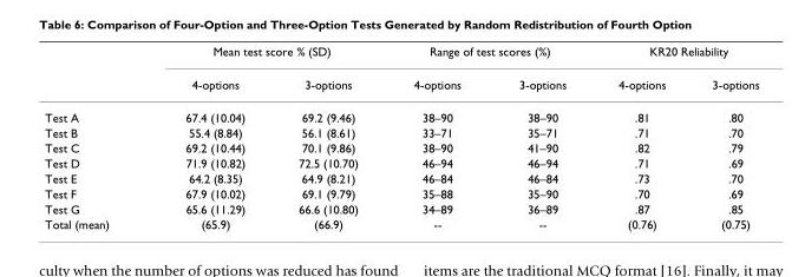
<table><thead><tr><td rowspan="2"></td><td colspan="2">Mean test score % (SD)</td><td colspan="2">Range of test scores (%)</td><td colspan="2">KR20 Reliability</td></tr><tr><td>4-options</td><td>3-options</td><td>4-options</td><td>3-options</td><td>4-options</td><td>3-options</td></tr></thead><tbody><tr><td>Test A</td><td>67.4 (10.04)</td><td>69.2 (9.46)</td><td>38–90</td><td>38–90</td><td>.81</td><td>.80</td></tr><tr><td>Test B</td><td>55.4 (8.84)</td><td>56.1 (8.61)</td><td>33–71</td><td>35–71</td><td>.71</td><td>.70</td></tr><tr><td>Test C</td><td>69.2 (10.44)</td><td>70.1 (9.86)</td><td>38–90</td><td>41–90</td><td>.82</td><td>.79</td></tr><tr><td>Test D</td><td>71.9 (10.82)</td><td>72.5 (10.70)</td><td>46–94</td><td>46–94</td><td>.71</td><td>.69</td></tr><tr><td>Test E</td><td>64.2 (8.35)</td><td>64.9 (8.21)</td><td>46–84</td><td>46–84</td><td>.73</td><td>.70</td></tr><tr><td>Test F</td><td>67.9 (10.02)</td><td>69.1 (9.79)</td><td>35–88</td><td>35–90</td><td>.70</td><td>.69</td></tr><tr><td>Test G</td><td>65.6 (11.29)</td><td>66.6 (10.80)</td><td>34–89</td><td>36–89</td><td>.87</td><td>.85</td></tr><tr><td>Total (mean)</td><td>(65.9)</td><td>(66.9)</td><td>--</td><td>--</td><td>(0.76)</td><td>(0.75)</td></tr></tbody></table>